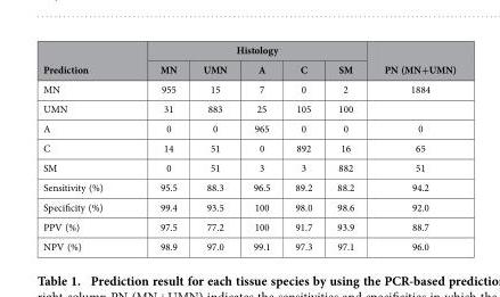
<table><thead><tr><td rowspan="2">Prediction</td><td colspan="5">Histology</td><td rowspan="2">PN (MN+UMN)</td></tr><tr><td>MN</td><td>UMN</td><td>A</td><td>C</td><td>SM</td></tr></thead><tbody><tr><td>MN</td><td>955</td><td>15</td><td>7</td><td>0</td><td>2</td><td>1884</td></tr><tr><td>UMN</td><td>31</td><td>883</td><td>25</td><td>105</td><td>100</td><td></td></tr><tr><td>A</td><td>0</td><td>0</td><td>965</td><td>0</td><td>0</td><td>0</td></tr><tr><td>C</td><td>14</td><td>51</td><td>0</td><td>892</td><td>16</td><td>65</td></tr><tr><td>SM</td><td>0</td><td>51</td><td>3</td><td>3</td><td>882</td><td>51</td></tr><tr><td>Sensitivity (%)</td><td>95.5</td><td>88.3</td><td>96.5</td><td>89.2</td><td>88.2</td><td>94.2</td></tr><tr><td>Specificity (%)</td><td>99.4</td><td>93.5</td><td>100</td><td>98.0</td><td>98.6</td><td>92.0</td></tr><tr><td>PPV (%)</td><td>97.5</td><td>77.2</td><td>100</td><td>91.7</td><td>93.9</td><td>88.7</td></tr><tr><td>NPV (%)</td><td>98.9</td><td>97.0</td><td>99.1</td><td>97.3</td><td>97.1</td><td>96.0</td></tr></tbody></table>